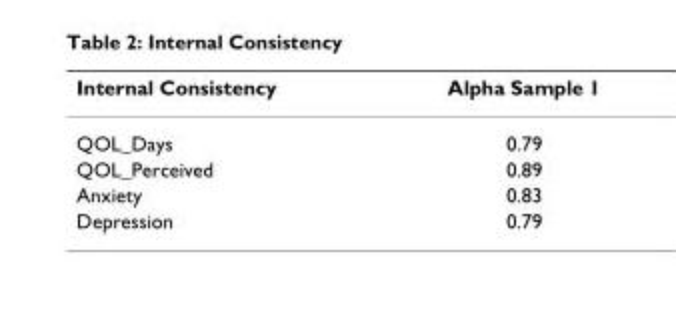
<table><thead><tr><td>Internal Consistency</td><td>Alpha Sample 1</td></tr></thead><tbody><tr><td>QOL_Days</td><td>0.79</td></tr><tr><td>QOL_Perceived</td><td>0.89</td></tr><tr><td>Anxiety</td><td>0.83</td></tr><tr><td>Depression</td><td>0.79</td></tr></tbody></table>